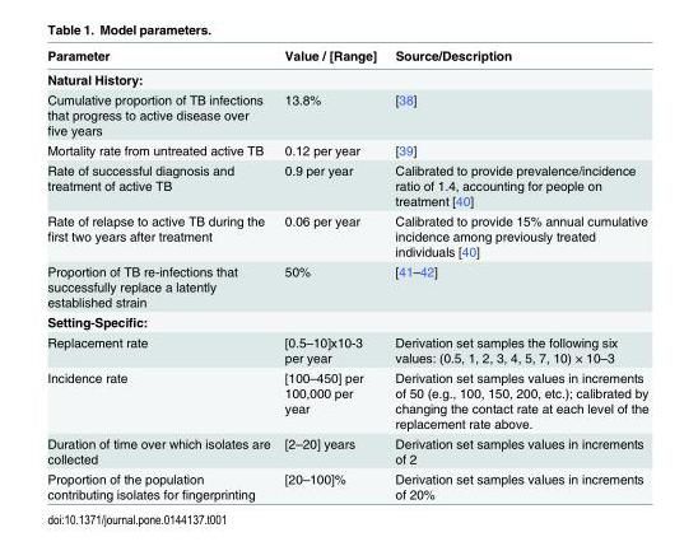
<table><thead><tr><td>Parameter</td><td>Value / [Range]</td><td>Source/Description</td></tr></thead><tbody><tr><td colspan="3">Natural History:</td></tr><tr><td>Cumulative proportion of TB infections that progress to active disease over five years</td><td>13.8%</td><td>[38]</td></tr><tr><td>Mortality rate from untreated active TB</td><td>0.12 per year</td><td>[39]</td></tr><tr><td>Rate of successful diagnosis and treatment of active TB</td><td>0.9 per year</td><td>Calibrated to provide prevalence/incidence ratio of 1.4, accounting for people on treatment [40]</td></tr><tr><td>Rate of relapse to active TB during the first two years after treatment</td><td>0.06 per year</td><td>Calibrated to provide 15% annual cumulative incidence among previously treated individuals [40]</td></tr><tr><td>Proportion of TB re-infections that successfully replace a latently established strain</td><td>50%</td><td>[41–42]</td></tr><tr><td colspan="3">Setting-Specific:</td></tr><tr><td>Replacement rate</td><td>[0.5–10]x10-3 per year</td><td>Derivation set samples the following six values: (0.5, 1, 2, 3, 4, 5, 7, 10) × 10–3</td></tr><tr><td>Incidence rate</td><td>[100–450] per 100,000 per year</td><td>Derivation set samples values in increments of 50 (e.g., 100, 150, 200, etc.); calibrated by changing the contact rate at each level of the replacement rate above.</td></tr><tr><td>Duration of time over which isolates are collected</td><td>[2–20] years</td><td>Derivation set samples values in increments of 2</td></tr><tr><td>Proportion of the population contributing isolates for fingerprinting</td><td>[20–100]%</td><td>Derivation set samples values in increments of 20%</td></tr></tbody></table>